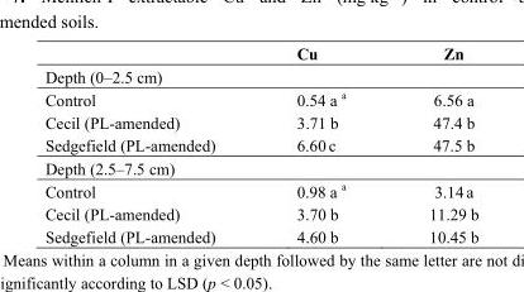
<table><thead><tr><td></td><td>Cu</td><td>Zn</td></tr></thead><tbody><tr><td colspan="3">Depth (0–2.5 cm)</td></tr><tr><td>Control</td><td>0.54 a <sup>a</sup></td><td>6.56 a</td></tr><tr><td>Cecil (PL-amended)</td><td>3.71 b</td><td>47.4 b</td></tr><tr><td>Sedgefield (PL-amended)</td><td>6.60 c</td><td>47.5 b</td></tr><tr><td colspan="3">Depth (2.5–7.5 cm)</td></tr><tr><td>Control</td><td>0.98 a <sup>a</sup></td><td>3.14 a</td></tr><tr><td>Cecil (PL-amended)</td><td>3.70 b</td><td>11.29 b</td></tr><tr><td>Sedgefield (PL-amended)</td><td>4.60 b</td><td>10.45 b</td></tr></tbody></table>